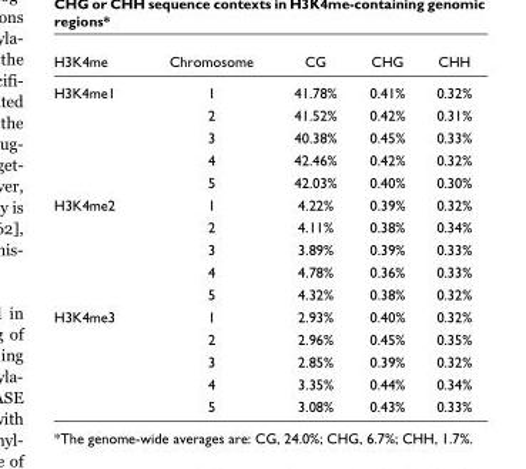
<table><thead><tr><td>H3K4me</td><td>Chromosome</td><td>CG</td><td>CHG</td><td>CHH</td></tr></thead><tbody><tr><td rowspan="5">H3K4me1</td><td>1</td><td>41.78%</td><td>0.41%</td><td>0.32%</td></tr><tr><td>2</td><td>41.52%</td><td>0.42%</td><td>0.31%</td></tr><tr><td>3</td><td>40.38%</td><td>0.45%</td><td>0.33%</td></tr><tr><td>4</td><td>42.46%</td><td>0.42%</td><td>0.32%</td></tr><tr><td>5</td><td>42.03%</td><td>0.40%</td><td>0.30%</td></tr><tr><td rowspan="5">H3K4me2</td><td>1</td><td>4.22%</td><td>0.39%</td><td>0.32%</td></tr><tr><td>2</td><td>4.11%</td><td>0.38%</td><td>0.34%</td></tr><tr><td>3</td><td>3.89%</td><td>0.39%</td><td>0.33%</td></tr><tr><td>4</td><td>4.78%</td><td>0.36%</td><td>0.33%</td></tr><tr><td>5</td><td>4.32%</td><td>0.38%</td><td>0.32%</td></tr><tr><td rowspan="5">H3K4me3</td><td>1</td><td>2.93%</td><td>0.40%</td><td>0.32%</td></tr><tr><td>2</td><td>2.96%</td><td>0.45%</td><td>0.35%</td></tr><tr><td>3</td><td>2.85%</td><td>0.39%</td><td>0.32%</td></tr><tr><td>4</td><td>3.35%</td><td>0.44%</td><td>0.34%</td></tr><tr><td>5</td><td>3.08%</td><td>0.43%</td><td>0.33%</td></tr></tbody></table>